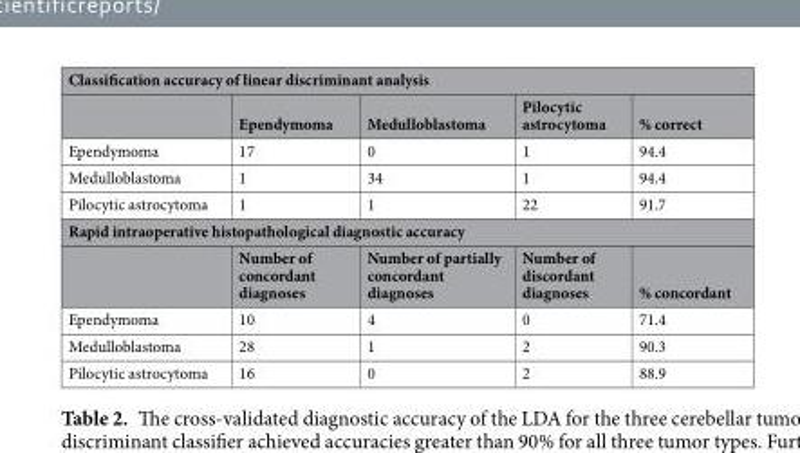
<table><thead><tr><td colspan="5">Classification accuracy of linear discriminant analysis</td></tr><tr><td></td><td>Ependymoma</td><td>Medulloblastoma</td><td>Pilocytic astrocytoma</td><td>% correct</td></tr></thead><tbody><tr><td>Ependymoma</td><td>17</td><td>0</td><td>1</td><td>94.4</td></tr><tr><td>Medulloblastoma</td><td>1</td><td>34</td><td>1</td><td>94.4</td></tr><tr><td>Pilocytic astrocytoma</td><td>1</td><td>1</td><td>22</td><td>91.7</td></tr><tr><td colspan="5">Rapid intraoperative histopathological diagnostic accuracy</td></tr><tr><td></td><td>Number of concordant diagnoses</td><td>Number of partially concordant diagnoses</td><td>Number of discordant diagnoses</td><td>% concordant</td></tr><tr><td>Ependymoma</td><td>10</td><td>4</td><td>0</td><td>71.4</td></tr><tr><td>Medulloblastoma</td><td>28</td><td>1</td><td>2</td><td>90.3</td></tr><tr><td>Pilocytic astrocytoma</td><td>16</td><td>0</td><td>2</td><td>88.9</td></tr></tbody></table>